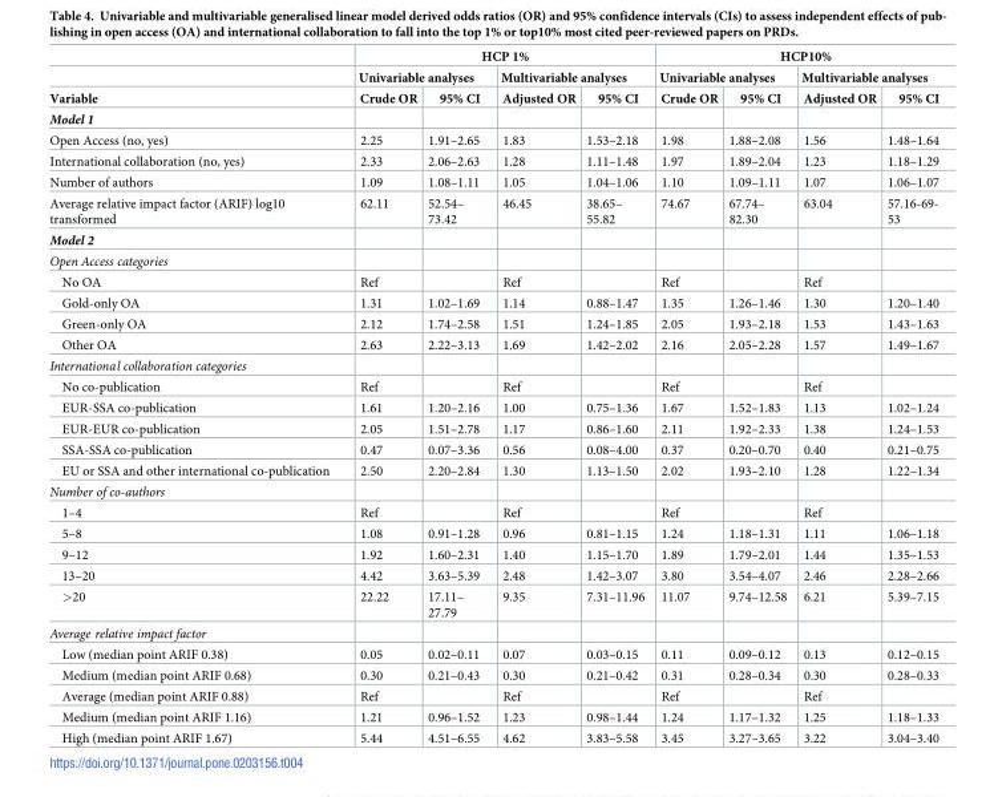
<table><thead><tr><td rowspan="3">Variable</td><td colspan="4">HCP 1%</td><td colspan="4">HCP10%</td></tr><tr><td colspan="2">Univariable analyses</td><td colspan="2">Multivariable analyses</td><td colspan="2">Univariable analyses</td><td colspan="2">Multivariable analyses</td></tr><tr><td>Crude OR</td><td>95% CI</td><td>Adjusted OR</td><td>95% CI</td><td>Crude OR</td><td>95% CI</td><td>Adjusted OR</td><td>95% CI</td></tr></thead><tbody><tr><td colspan="9">Model 1</td></tr><tr><td>Open Access (no, yes)</td><td>2.25</td><td>1.91–2.65</td><td>1.83</td><td>1.53–2.18</td><td>1.98</td><td>1.88–2.08</td><td>1.56</td><td>1.48–1.64</td></tr><tr><td>International collaboration (no, yes)</td><td>2.33</td><td>2.06–2.63</td><td>1.28</td><td>1.11–1.48</td><td>1.97</td><td>1.89–2.04</td><td>1.23</td><td>1.18–1.29</td></tr><tr><td>Number of authors</td><td>1.09</td><td>1.08–1.11</td><td>1.05</td><td>1.04–1.06</td><td>1.10</td><td>1.09–1.11</td><td>1.07</td><td>1.06–1.07</td></tr><tr><td>Average relative impact factor (ARIF) log10 transformed</td><td>62.11</td><td>52.54– 73.42</td><td>46.45</td><td>38.65– 55.82</td><td>74.67</td><td>67.74– 82.30</td><td>63.04</td><td>57.16-69- 53</td></tr><tr><td colspan="9">Model 2</td></tr><tr><td colspan="9">Open Access categories</td></tr><tr><td>No OA</td><td>Ref</td><td></td><td>Ref</td><td></td><td>Ref</td><td></td><td>Ref</td><td></td></tr><tr><td>Gold-only OA</td><td>1.31</td><td>1.02–1.69</td><td>1.14</td><td>0.88–1.47</td><td>1.35</td><td>1.26–1.46</td><td>1.30</td><td>1.20–1.40</td></tr><tr><td>Green-only OA</td><td>2.12</td><td>1.74–2.58</td><td>1.51</td><td>1.24–1.85</td><td>2.05</td><td>1.93–2.18</td><td>1.53</td><td>1.43–1.63</td></tr><tr><td>Other OA</td><td>2.63</td><td>2.22–3.13</td><td>1.69</td><td>1.42–2.02</td><td>2.16</td><td>2.05–2.28</td><td>1.57</td><td>1.49–1.67</td></tr><tr><td colspan="9">International collaboration categories</td></tr><tr><td>No co-publication</td><td>Ref</td><td></td><td>Ref</td><td></td><td>Ref</td><td></td><td>Ref</td><td></td></tr><tr><td>EUR-SSA co-publication</td><td>1.61</td><td>1.20–2.16</td><td>1.00</td><td>0.75–1.36</td><td>1.67</td><td>1.52–1.83</td><td>1.13</td><td>1.02–1.24</td></tr><tr><td>EUR-EUR co-publication</td><td>2.05</td><td>1.51–2.78</td><td>1.17</td><td>0.86–1.60</td><td>2.11</td><td>1.92–2.33</td><td>1.38</td><td>1.24–1.53</td></tr><tr><td>SSA-SSA co-publication</td><td>0.47</td><td>0.07–3.36</td><td>0.56</td><td>0.08–4.00</td><td>0.37</td><td>0.20–0.70</td><td>0.40</td><td>0.21–0.75</td></tr><tr><td>EU or SSA and other international co-publication</td><td>2.50</td><td>2.20–2.84</td><td>1.30</td><td>1.13–1.50</td><td>2.02</td><td>1.93–2.10</td><td>1.28</td><td>1.22–1.34</td></tr><tr><td colspan="9">Number of co-authors</td></tr><tr><td>1–4</td><td>Ref</td><td></td><td>Ref</td><td></td><td>Ref</td><td></td><td>Ref</td><td></td></tr><tr><td>5–8</td><td>1.08</td><td>0.91–1.28</td><td>0.96</td><td>0.81–1.15</td><td>1.24</td><td>1.18–1.31</td><td>1.11</td><td>1.06–1.18</td></tr><tr><td>9–12</td><td>1.92</td><td>1.60–2.31</td><td>1.40</td><td>1.15–1.70</td><td>1.89</td><td>1.79–2.01</td><td>1.44</td><td>1.35–1.53</td></tr><tr><td>13–20</td><td>4.42</td><td>3.63–5.39</td><td>2.48</td><td>1.42–3.07</td><td>3.80</td><td>3.54–4.07</td><td>2.46</td><td>2.28–2.66</td></tr><tr><td>&gt;20</td><td>22.22</td><td>17.11– 27.79</td><td>9.35</td><td>7.31–11.96</td><td>11.07</td><td>9.74–12.58</td><td>6.21</td><td>5.39–7.15</td></tr><tr><td colspan="9">Average relative impact factor</td></tr><tr><td>Low (median point ARIF 0.38)</td><td>0.05</td><td>0.02–0.11</td><td>0.07</td><td>0.03–0.15</td><td>0.11</td><td>0.09–0.12</td><td>0.13</td><td>0.12–0.15</td></tr><tr><td>Medium (median point ARIF 0.68)</td><td>0.30</td><td>0.21–0.43</td><td>0.30</td><td>0.21–0.42</td><td>0.31</td><td>0.28–0.34</td><td>0.30</td><td>0.28–0.33</td></tr><tr><td>Average (median point ARIF 0.88)</td><td>Ref</td><td></td><td>Ref</td><td></td><td>Ref</td><td></td><td>Ref</td><td></td></tr><tr><td>Medium (median point ARIF 1.16)</td><td>1.21</td><td>0.96–1.52</td><td>1.23</td><td>0.98–1.44</td><td>1.24</td><td>1.17–1.32</td><td>1.25</td><td>1.18–1.33</td></tr><tr><td>High (median point ARIF 1.67)</td><td>5.44</td><td>4.51–6.55</td><td>4.62</td><td>3.83–5.58</td><td>3.45</td><td>3.27–3.65</td><td>3.22</td><td>3.04–3.40</td></tr></tbody></table>